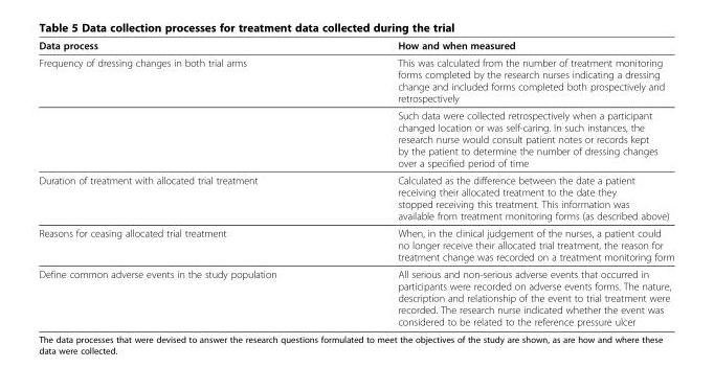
<table><thead><tr><td>Data process</td><td>How and when measured</td></tr></thead><tbody><tr><td rowspan="2">Frequency of dressing changes in both trial arms</td><td>This was calculated from the number of treatment monitoring forms completed by the research nurses indicating a dressing change and included forms completed both prospectively and retrospectively</td></tr><tr><td>Such data were collected retrospectively when a participant changed location or was self-caring. In such instances, the research nurse would consult patient notes or records kept by the patient to determine the number of dressing changes over a specified period of time</td></tr><tr><td>Duration of treatment with allocated trial treatment</td><td>Calculated as the difference between the date a patient receiving their allocated treatment to the date they stopped receiving this treatment. This information was available from treatment monitoring forms (as described above)</td></tr><tr><td>Reasons for ceasing allocated trial treatment</td><td>When, in the clinical judgement of the nurses, a patient could no longer receive their allocated trial treatment, the reason for treatment change was recorded on a treatment monitoring form</td></tr><tr><td>Define common adverse events in the study population</td><td>All serious and non-serious adverse events that occurred in participants were recorded on adverse events forms. The nature, description and relationship of the event to trial treatment were recorded. The research nurse indicated whether the event was considered to be related to the reference pressure ulcer</td></tr></tbody></table>